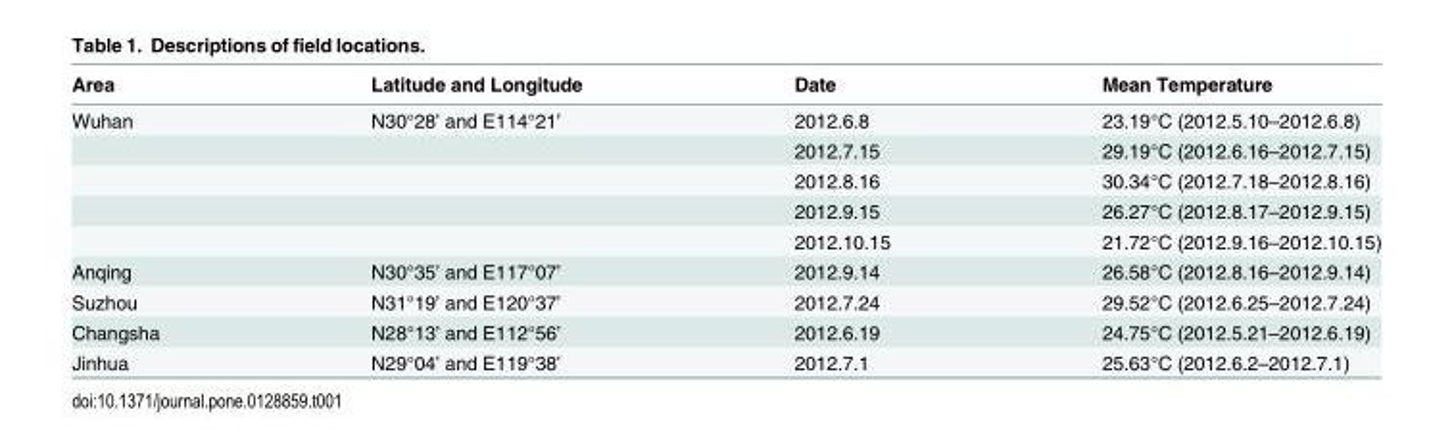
<table><thead><tr><td>Area</td><td>Latitude and Longitude</td><td>Date</td><td>Mean Temperature</td></tr></thead><tbody><tr><td rowspan="5">Wuhan</td><td>N30°28’ and E114°21’</td><td>2012.6.8</td><td>23.19°C (2012.5.10–2012.6.8)</td></tr><tr><td></td><td>2012.7.15</td><td>29.19°C (2012.6.16–2012.7.15)</td></tr><tr><td></td><td>2012.8.16</td><td>30.34°C (2012.7.18–2012.8.16)</td></tr><tr><td></td><td>2012.9.15</td><td>26.27°C (2012.8.17–2012.9.15)</td></tr><tr><td></td><td>2012.10.15</td><td>21.72°C (2012.9.16–2012.10.15)</td></tr><tr><td>Anqing</td><td>N30°35’ and E117°07’</td><td>2012.9.14</td><td>26.58°C (2012.8.16–2012.9.14)</td></tr><tr><td>Suzhou</td><td>N31°19’ and E120°37’</td><td>2012.7.24</td><td>29.52°C (2012.6.25–2012.7.24)</td></tr><tr><td>Changsha</td><td>N28°13’ and E112°56’</td><td>2012.6.19</td><td>24.75°C (2012.5.21–2012.6.19)</td></tr><tr><td>Jinhua</td><td>N29°04’ and E119°38’</td><td>2012.7.1</td><td>25.63°C (2012.6.2–2012.7.1)</td></tr></tbody></table>